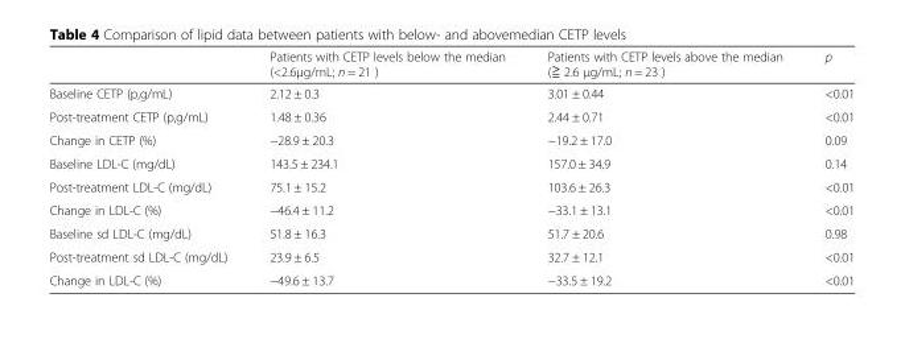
<table><thead><tr><td></td><td>Patients with CETP levels below the median (&lt;2.6μg/mL; n = 21 )</td><td>Patients with CETP levels above the median (≧ 2.6 μg/mL; n = 23 )</td><td>p</td></tr></thead><tbody><tr><td>Baseline CETP (p,g/mL)</td><td>2.12 ± 0.3</td><td>3.01 ± 0.44</td><td>&lt;0.01</td></tr><tr><td>Post-treatment CETP (p,g/mL)</td><td>1.48 ± 0.36</td><td>2.44 ± 0.71</td><td>&lt;0.01</td></tr><tr><td>Change in CETP (%)</td><td>−28.9 ± 20.3</td><td>−19.2 ± 17.0</td><td>0.09</td></tr><tr><td>Baseline LDL-C (mg/dL)</td><td>143.5 ± 234.1</td><td>157.0 ± 34.9</td><td>0.14</td></tr><tr><td>Post-treatment LDL-C (mg/dL)</td><td>75.1 ± 15.2</td><td>103.6 ± 26.3</td><td>&lt;0.01</td></tr><tr><td>Change in LDL-C (%)</td><td>−46.4 ± 11.2</td><td>−33.1 ± 13.1</td><td>&lt;0.01</td></tr><tr><td>Baseline sd LDL-C (mg/dL)</td><td>51.8 ± 16.3</td><td>51.7 ± 20.6</td><td>0.98</td></tr><tr><td>Post-treatment sd LDL-C (mg/dL)</td><td>23.9 ± 6.5</td><td>32.7 ± 12.1</td><td>&lt;0.01</td></tr><tr><td>Change in LDL-C (%)</td><td>−49.6 ± 13.7</td><td>−33.5 ± 19.2</td><td>&lt;0.01</td></tr></tbody></table>